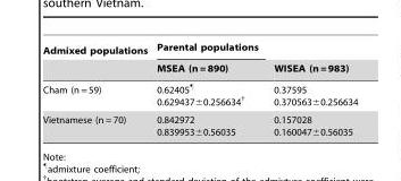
<table><thead><tr><td rowspan="2">Admixed populations</td><td rowspan="2">Parental populations MSEA (n = 890)</td><td rowspan="2">WISEA (n = 983)</td></tr><tr></tr></thead><tbody><tr><td>Cham (n = 59)</td><td>0.62405¶ 0.629437±0.256634†</td><td>0.37595 0.370563±0.256634</td></tr><tr><td>Vietnamese (n = 70)</td><td>0.842972 0.839953±0.56035</td><td>0.157028 0.160047±0.56035</td></tr></tbody></table>